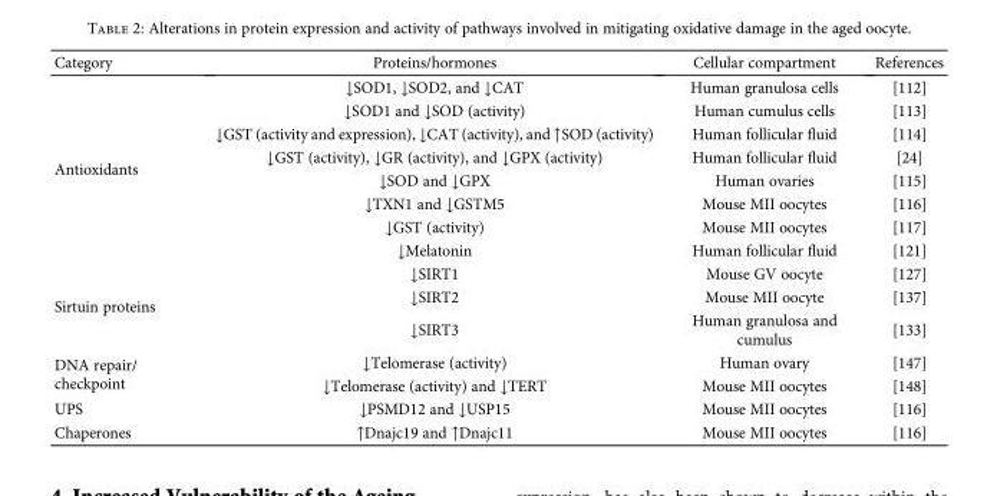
<table><thead><tr><td>Category</td><td>Proteins/hormones</td><td>Cellular compartment</td><td>References</td></tr></thead><tbody><tr><td rowspan="8">Antioxidants</td><td>↓SOD1, ↓SOD2, and ↓CAT</td><td>Human granulosa cells</td><td>[112]</td></tr><tr><td>↓SOD1 and ↓SOD (activity)</td><td>Human cumulus cells</td><td>[113]</td></tr><tr><td>↓GST (activity and expression), ↓CAT (activity), and ↑SOD (activity)</td><td>Human follicular fluid</td><td>[114]</td></tr><tr><td>↓GST (activity), ↓GR (activity), and ↓GPX (activity)</td><td>Human follicular fluid</td><td>[24]</td></tr><tr><td>↓SOD and ↓GPX</td><td>Human ovaries</td><td>[115]</td></tr><tr><td>↓TXN1 and ↓GSTM5</td><td>Mouse MII oocytes</td><td>[116]</td></tr><tr><td>↓GST (activity)</td><td>Mouse MII oocytes</td><td>[117]</td></tr><tr><td>↓Melatonin</td><td>Human follicular fluid</td><td>[121]</td></tr><tr><td rowspan="3">Sirtuin proteins</td><td>↓SIRT1</td><td>Mouse GV oocyte</td><td>[127]</td></tr><tr><td>↓SIRT2</td><td>Mouse MII oocyte</td><td>[137]</td></tr><tr><td>↓SIRT3</td><td>Human granulosa and cumulus</td><td>[133]</td></tr><tr><td rowspan="2">DNA repair/ checkpoint</td><td>↓Telomerase (activity)</td><td>Human ovary</td><td>[147]</td></tr><tr><td>↓Telomerase (activity) and ↓TERT</td><td>Mouse MII oocytes</td><td>[148]</td></tr><tr><td>UPS</td><td>↓PSMD12 and ↓USP15</td><td>Mouse MII oocytes</td><td>[116]</td></tr><tr><td>Chaperones</td><td>↑Dnajc19 and ↑Dnajc11</td><td>Mouse MII oocytes</td><td>[116]</td></tr></tbody></table>